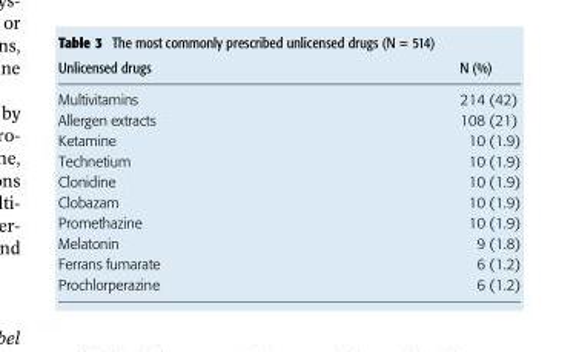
<table><thead><tr><td>Unlicensed drugs</td><td>N (%)</td></tr></thead><tbody><tr><td>Multivitamins</td><td>214 (42)</td></tr><tr><td>Allergen extracts</td><td>108 (21)</td></tr><tr><td>Ketamine</td><td>10 (1.9)</td></tr><tr><td>Technetium</td><td>10 (1.9)</td></tr><tr><td>Clonidine</td><td>10 (1.9)</td></tr><tr><td>Clobazam</td><td>10 (1.9)</td></tr><tr><td>Promethazine</td><td>10 (1.9)</td></tr><tr><td>Melatonin</td><td>9 (1.8)</td></tr><tr><td>Ferrans fumarate</td><td>6 (1.2)</td></tr><tr><td>Prochlorperazine</td><td>6 (1.2)</td></tr></tbody></table>